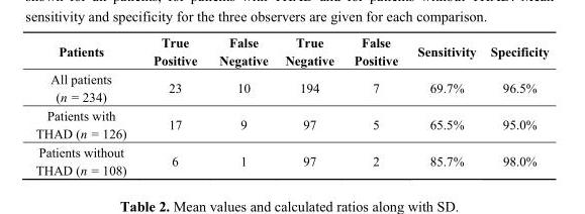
<table><thead><tr><td>Patients</td><td>True Positive</td><td>False Negative</td><td>True Negative</td><td>False Positive</td><td>Sensitivity</td><td>Specificity</td></tr></thead><tbody><tr><td>All patients (n = 234)</td><td>23</td><td>10</td><td>194</td><td>7</td><td>69.7%</td><td>96.5%</td></tr><tr><td>Patients with THAD (n = 126)</td><td>17</td><td>9</td><td>97</td><td>5</td><td>65.5%</td><td>95.0%</td></tr><tr><td>Patients without THAD (n = 108)</td><td>6</td><td>1</td><td>97</td><td>2</td><td>85.7%</td><td>98.0%</td></tr></tbody></table>